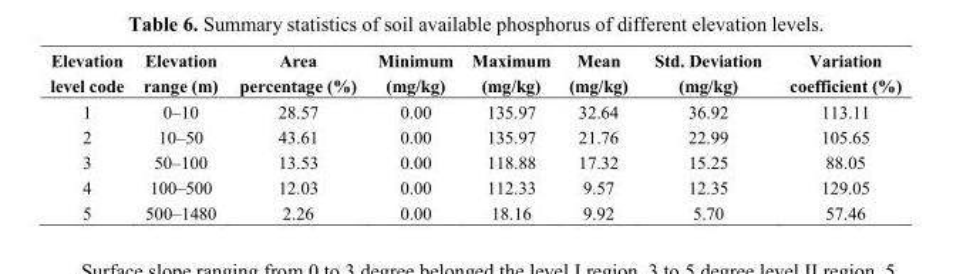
<table><thead><tr><td>Elevation level code</td><td>Elevation range (m)</td><td>Area percentage (%)</td><td>Minimum (mg/kg)</td><td>Maximum (mg/kg)</td><td>Mean (mg/kg)</td><td>Std. Deviation (mg/kg)</td><td>Variation coefficient (%)</td></tr></thead><tbody><tr><td>1</td><td>0–10</td><td>28.57</td><td>0.00</td><td>135.97</td><td>32.64</td><td>36.92</td><td>113.11</td></tr><tr><td>2</td><td>10–50</td><td>43.61</td><td>0.00</td><td>135.97</td><td>21.76</td><td>22.99</td><td>105.65</td></tr><tr><td>3</td><td>50–100</td><td>13.53</td><td>0.00</td><td>118.88</td><td>17.32</td><td>15.25</td><td>88.05</td></tr><tr><td>4</td><td>100–500</td><td>12.03</td><td>0.00</td><td>112.33</td><td>9.57</td><td>12.35</td><td>129.05</td></tr><tr><td>5</td><td>500–1480</td><td>2.26</td><td>0.00</td><td>18.16</td><td>9.92</td><td>5.70</td><td>57.46</td></tr></tbody></table>